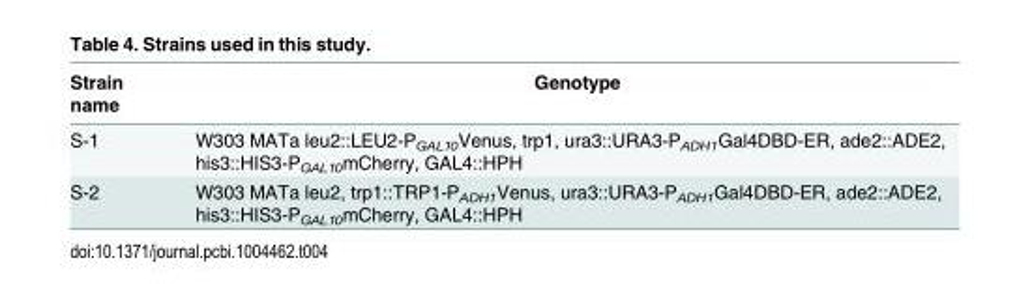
<table><thead><tr><td>Strain name</td><td>Genotype</td></tr></thead><tbody><tr><td>S-1</td><td>W303 MATa leu2::LEU2-P<sub>GAL10</sub>Venus, trp1, ura3::URA3-P<sub>ADH1</sub>Gal4DBD-ER, ade2::ADE2, his3::HIS3-P<sub>GAL10</sub>mCherry, GAL4::HPH</td></tr><tr><td>S-2</td><td>W303 MATa leu2, trp1::TRP1-P<sub>ADH1</sub>Venus, ura3::URA3-P<sub>ADH1</sub>Gal4DBD-ER, ade2::ADE2, his3::HIS3-P<sub>GAL10</sub>mCherry, GAL4::HPH</td></tr></tbody></table>